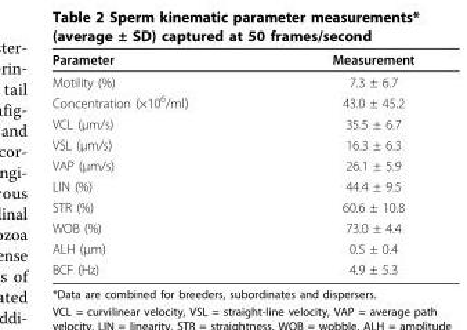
<table><thead><tr><td>Parameter</td><td>Measurement</td></tr></thead><tbody><tr><td>Motility (%)</td><td>7.3 ± 6.7</td></tr><tr><td>Concentration (×10<sup>6</sup>/ml)</td><td>43.0 ± 45.2</td></tr><tr><td>VCL (μm/s)</td><td>35.5 ± 6.7</td></tr><tr><td>VSL (μm/s)</td><td>16.3 ± 6.3</td></tr><tr><td>VAP (μm/s)</td><td>26.1 ± 5.9</td></tr><tr><td>LIN (%)</td><td>44.4 ± 9.5</td></tr><tr><td>STR (%)</td><td>60.6 ± 10.8</td></tr><tr><td>WOB (%)</td><td>73.0 ± 4.4</td></tr><tr><td>ALH (μm)</td><td>0.5 ± 0.4</td></tr><tr><td>BCF (Hz)</td><td>4.9 ± 5.3</td></tr></tbody></table>